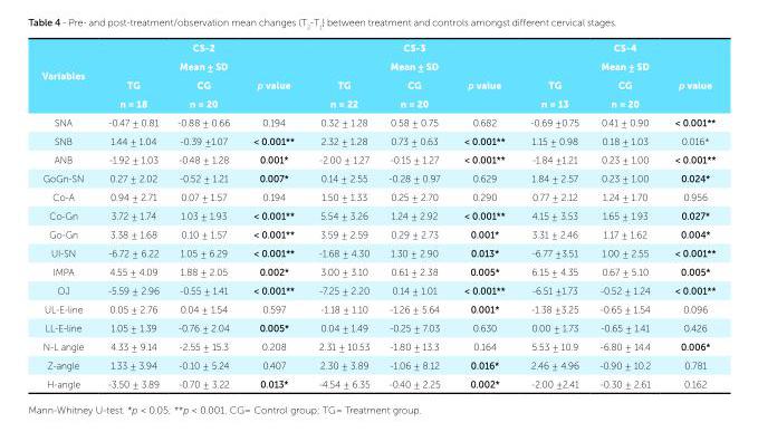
<table><tbody><tr><td rowspan="4">Variables</td><td colspan="3">CS-2</td><td colspan="3">CS-3</td><td colspan="3">CS-4</td></tr><tr><td colspan="3">Mean ± SD</td><td colspan="3">Mean ± SD</td><td colspan="3">Mean ± SD</td></tr><tr><td>TG</td><td>CG</td><td rowspan="2">p value</td><td>TG</td><td>CG</td><td rowspan="2">p value</td><td>TG</td><td>CG</td><td rowspan="2">p value</td></tr><tr><td>n = 18</td><td>n = 20</td><td>n = 22</td><td>n = 20</td><td>n = 13</td><td>n = 20</td></tr><tr><td>SNA</td><td>-0.47 ± 0.81</td><td>-0.88 ± 0.66</td><td>0.194</td><td>0.32 ± 1.28</td><td>0.58 ± 0.75</td><td>0.682</td><td>-0.69 ±0.75</td><td>0.41 ± 0.90</td><td>&lt; 0.001**</td></tr><tr><td>SNB</td><td>1.44 ± 1.04</td><td>-0.39 ±1.07</td><td>&lt; 0.001**</td><td>2.32 ± 1.28</td><td>0.73 ± 0.63</td><td>&lt; 0.001**</td><td>1.15 ± 0.98</td><td>0.18 ± 1.03</td><td>0.016*</td></tr><tr><td>ANB</td><td>-1.92 ± 1.03</td><td>-0.48 ± 1.28</td><td>0.001*</td><td>-2.00 ± 1.27</td><td>-0.15 ± 1.27</td><td>&lt; 0.001**</td><td>-1.84 ±1.21</td><td>0.23 ± 1.00</td><td>&lt; 0.001**</td></tr><tr><td>GoGn-SN</td><td>0.27 ± 2.02</td><td>-0.52 ± 1.21</td><td>0.007*</td><td>0.14 ± 2.55</td><td>-0.28 ± 0.97</td><td>0.629</td><td>1.84 ± 2.57</td><td>0.23 ± 1.00</td><td>0.024*</td></tr><tr><td>Co-A</td><td>0.94 ± 2.71</td><td>0.07 ± 1.57</td><td>0.194</td><td>1.50 ± 1.33</td><td>0.25 ± 2.70</td><td>0.290</td><td>0.77 ± 2.12</td><td>1.24 ± 1.70</td><td>0.956</td></tr><tr><td>Co-Gn</td><td>3.72 ± 1.74</td><td>1.03 ± 1.93</td><td>&lt; 0.001**</td><td>5.54 ± 3.26</td><td>1.24 ± 2.92</td><td>&lt; 0.001**</td><td>4.15 ± 3.53</td><td>1.65 ± 1.93</td><td>0.027*</td></tr><tr><td>Go-Gn</td><td>3.38 ± 1.68</td><td>0.10 ± 1.57</td><td>&lt; 0.001**</td><td>3.59 ± 2.59</td><td>0.29 ± 2.73</td><td>0.001*</td><td>3.31 ± 2.46</td><td>1.17 ± 1.62</td><td>0.004*</td></tr><tr><td>UI-SN</td><td>-6.72 ± 6.22</td><td>1.05 ± 6.29</td><td>&lt; 0.001**</td><td>-1.68 ± 4.30</td><td>1.30 ± 2.90</td><td>0.013*</td><td>-6.77 ±3.51</td><td>1.00 ± 2.55</td><td>&lt; 0.001**</td></tr><tr><td>IMPA</td><td>4.55 ± 4.09</td><td>1.88 ± 2.05</td><td>0.002*</td><td>3.00 ± 3.10</td><td>0.61 ± 2.38</td><td>0.005*</td><td>6.15 ± 4.35</td><td>0.67 ± 5.10</td><td>0.005*</td></tr><tr><td>OJ</td><td>-5.59 ± 2.96</td><td>-0.55 ± 1.41</td><td>&lt; 0.001**</td><td>-7.25 ± 2.20</td><td>0.14 ± 1.01</td><td>&lt; 0.001**</td><td>-6.51 ±1.73</td><td>-0.52 ± 1.24</td><td>&lt; 0.001**</td></tr><tr><td>UL-E-line</td><td>0.05 ± 2.76</td><td>0.04 ± 1.54</td><td>0.597</td><td>-1.18 ± 1.10</td><td>-1.26 ± 5.64</td><td>0.001*</td><td>-1.38 ±3.25</td><td>-0.65 ± 1.54</td><td>0.096</td></tr><tr><td>LL-E-line</td><td>1.05 ± 1.39</td><td>-0.76 ± 2.04</td><td>0.005*</td><td>0.04 ± 1.49</td><td>-0.25 ± 7.03</td><td>0.630</td><td>0.00 ± 1.73</td><td>-0.65 ± 1.41</td><td>0.426</td></tr><tr><td>N-L angle</td><td>4.33 ± 9.14</td><td>-2.55 ± 15.3</td><td>0.208</td><td>2.31 ± 10.53</td><td>-1.80 ± 13.3</td><td>0.164</td><td>5.53 ± 10.9</td><td>-6.80 ± 14.4</td><td>0.006*</td></tr><tr><td>Z-angle</td><td>1.33 ± 3.94</td><td>-0.10 ± 5.24</td><td>0.407</td><td>2.30 ± 3.89</td><td>-1.06 ± 8.12</td><td>0.016*</td><td>2.46 ± 4.96</td><td>-0.90 ± 10.2</td><td>0.781</td></tr><tr><td>H-angle</td><td>-3.50 ± 3.89</td><td>-0.70 ± 3.22</td><td>0.013*</td><td>-4.54 ± 6.35</td><td>-0.40 ± 2.25</td><td>0.002*</td><td>-2.00 ±2.41</td><td>-0.30 ± 2.61</td><td>0.162</td></tr></tbody></table>